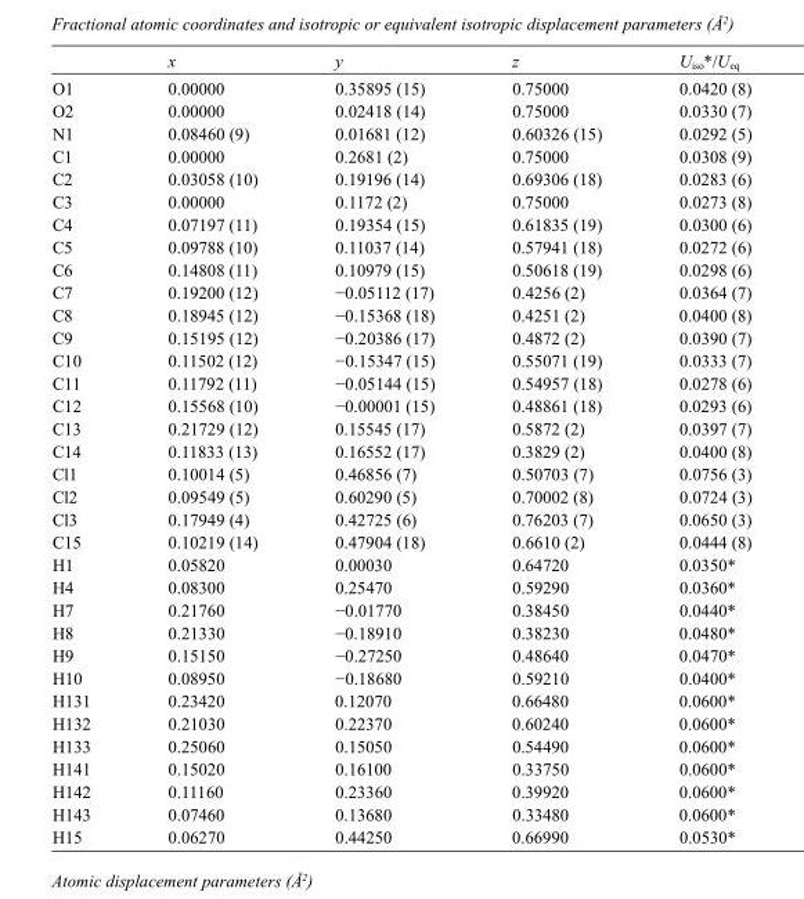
<table><thead><tr><td></td><td>x</td><td>y</td><td>z</td><td>U<sub>iso</sub>*/U<sub>eq</sub></td></tr></thead><tbody><tr><td>O1</td><td>0.00000</td><td>0.35895 (15)</td><td>0.75000</td><td>0.0420 (8)</td></tr><tr><td>O2</td><td>0.00000</td><td>0.02418 (14)</td><td>0.75000</td><td>0.0330 (7)</td></tr><tr><td>N1</td><td>0.08460 (9)</td><td>0.01681 (12)</td><td>0.60326 (15)</td><td>0.0292 (5)</td></tr><tr><td>C1</td><td>0.00000</td><td>0.2681 (2)</td><td>0.75000</td><td>0.0308 (9)</td></tr><tr><td>C2</td><td>0.03058 (10)</td><td>0.19196 (14)</td><td>0.69306 (18)</td><td>0.0283 (6)</td></tr><tr><td>C3</td><td>0.00000</td><td>0.1172 (2)</td><td>0.75000</td><td>0.0273 (8)</td></tr><tr><td>C4</td><td>0.07197 (11)</td><td>0.19354 (15)</td><td>0.61835 (19)</td><td>0.0300 (6)</td></tr><tr><td>C5</td><td>0.09788 (10)</td><td>0.11037 (14)</td><td>0.57941 (18)</td><td>0.0272 (6)</td></tr><tr><td>C6</td><td>0.14808 (11)</td><td>0.10979 (15)</td><td>0.50618 (19)</td><td>0.0298 (6)</td></tr><tr><td>C7</td><td>0.19200 (12)</td><td>−0.05112 (17)</td><td>0.4256 (2)</td><td>0.0364 (7)</td></tr><tr><td>C8</td><td>0.18945 (12)</td><td>−0.15368 (18)</td><td>0.4251 (2)</td><td>0.0400 (8)</td></tr><tr><td>C9</td><td>0.15195 (12)</td><td>−0.20386 (17)</td><td>0.4872 (2)</td><td>0.0390 (7)</td></tr><tr><td>C10</td><td>0.11502 (12)</td><td>−0.15347 (15)</td><td>0.55071 (19)</td><td>0.0333 (7)</td></tr><tr><td>C11</td><td>0.11792 (11)</td><td>−0.05144 (15)</td><td>0.54957 (18)</td><td>0.0278 (6)</td></tr><tr><td>C12</td><td>0.15568 (10)</td><td>−0.00001 (15)</td><td>0.48861 (18)</td><td>0.0293 (6)</td></tr><tr><td>C13</td><td>0.21729 (12)</td><td>0.15545 (17)</td><td>0.5872 (2)</td><td>0.0397 (7)</td></tr><tr><td>C14</td><td>0.11833 (13)</td><td>0.16552 (17)</td><td>0.3829 (2)</td><td>0.0400 (8)</td></tr><tr><td>Cl1</td><td>0.10014 (5)</td><td>0.46856 (7)</td><td>0.50703 (7)</td><td>0.0756 (3)</td></tr><tr><td>Cl2</td><td>0.09549 (5)</td><td>0.60290 (5)</td><td>0.70002 (8)</td><td>0.0724 (3)</td></tr><tr><td>Cl3</td><td>0.17949 (4)</td><td>0.42725 (6)</td><td>0.76203 (7)</td><td>0.0650 (3)</td></tr><tr><td>C15</td><td>0.10219 (14)</td><td>0.47904 (18)</td><td>0.6610 (2)</td><td>0.0444 (8)</td></tr><tr><td>H1</td><td>0.05820</td><td>0.00030</td><td>0.64720</td><td>0.0350*</td></tr><tr><td>H4</td><td>0.08300</td><td>0.25470</td><td>0.59290</td><td>0.0360*</td></tr><tr><td>H7</td><td>0.21760</td><td>−0.01770</td><td>0.38450</td><td>0.0440*</td></tr><tr><td>H8</td><td>0.21330</td><td>−0.18910</td><td>0.38230</td><td>0.0480*</td></tr><tr><td>H9</td><td>0.15150</td><td>−0.27250</td><td>0.48640</td><td>0.0470*</td></tr><tr><td>H10</td><td>0.08950</td><td>−0.18680</td><td>0.59210</td><td>0.0400*</td></tr><tr><td>H131</td><td>0.23420</td><td>0.12070</td><td>0.66480</td><td>0.0600*</td></tr><tr><td>H132</td><td>0.21030</td><td>0.22370</td><td>0.60240</td><td>0.0600*</td></tr><tr><td>H133</td><td>0.25060</td><td>0.15050</td><td>0.54490</td><td>0.0600*</td></tr><tr><td>H141</td><td>0.15020</td><td>0.16100</td><td>0.33750</td><td>0.0600*</td></tr><tr><td>H142</td><td>0.11160</td><td>0.23360</td><td>0.39920</td><td>0.0600*</td></tr><tr><td>H143</td><td>0.07460</td><td>0.13680</td><td>0.33480</td><td>0.0600*</td></tr><tr><td>H15</td><td>0.06270</td><td>0.44250</td><td>0.66990</td><td>0.0530*</td></tr></tbody></table>